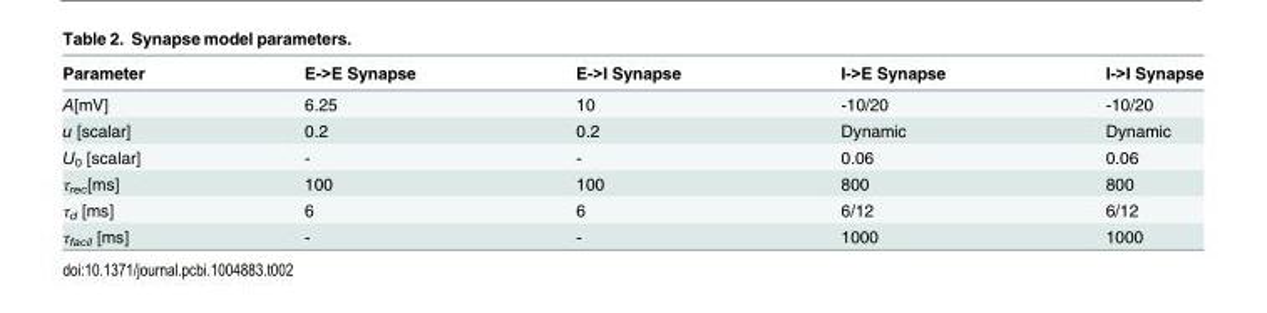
<table><thead><tr><td>Parameter</td><td>E-&gt;E Synapse</td><td>E-&gt;I Synapse</td><td>I-&gt;E Synapse</td><td>I-&gt;I Synapse</td></tr></thead><tbody><tr><td>A[mV]</td><td>6.25</td><td>10</td><td>-10/20</td><td>-10/20</td></tr><tr><td>u [scalar]</td><td>0.2</td><td>0.2</td><td>Dynamic</td><td>Dynamic</td></tr><tr><td>U<sub>0</sub> [scalar]</td><td>-</td><td>-</td><td>0.06</td><td>0.06</td></tr><tr><td>τ<sub>rec</sub>[ms]</td><td>100</td><td>100</td><td>800</td><td>800</td></tr><tr><td>τ<sub>d</sub> [ms]</td><td>6</td><td>6</td><td>6/12</td><td>6/12</td></tr><tr><td>τ<sub>facil</sub> [ms]</td><td>-</td><td>-</td><td>1000</td><td>1000</td></tr></tbody></table>